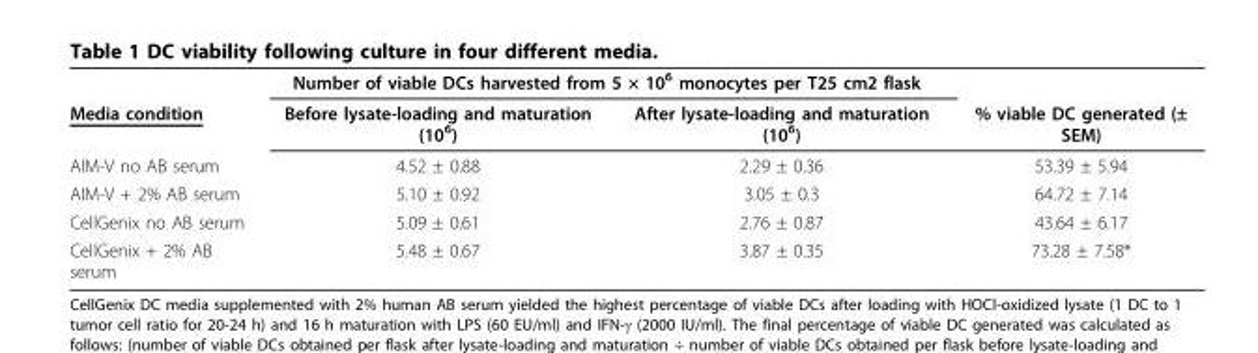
<table><thead><tr><td rowspan="2">Media condition</td><td colspan="2">Number of viable DCs harvested from 5 × 10<sup>6</sup> monocytes per T25 cm2 flask</td><td rowspan="2">% viable DC generated (± SEM)</td></tr><tr><td>Before lysate-loading and maturation (10<sup>6</sup>)</td><td>After lysate-loading and maturation (10<sup>6</sup>)</td></tr></thead><tbody><tr><td>AIM-V no AB serum</td><td>4.52 ± 0.88</td><td>2.29 ± 0.36</td><td>53.39 ± 5.94</td></tr><tr><td>AIM-V + 2% AB serum</td><td>5.10 ± 0.92</td><td>3.05 ± 0.3</td><td>64.72 ± 7.14</td></tr><tr><td>CellGenix no AB serum</td><td>5.09 ± 0.61</td><td>2.76 ± 0.87</td><td>43.64 ± 6.17</td></tr><tr><td>CellGenix + 2% AB serum</td><td>5.48 ± 0.67</td><td>3.87 ± 0.35</td><td>73.28 ± 7.58*</td></tr></tbody></table>